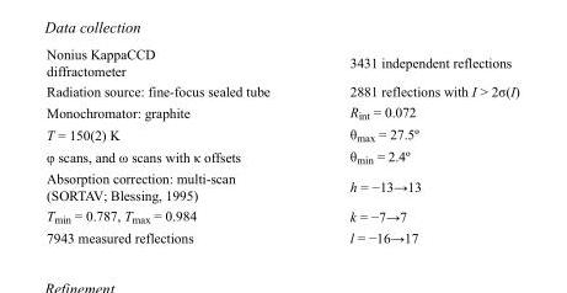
<table><tbody><tr><td>Nonius KappaCCD diffractometer</td><td>3431 independent reflections</td></tr><tr><td>Radiation source: fine-focus sealed tube</td><td>2881 reflections with I &gt; 2σ(I)</td></tr><tr><td>Monochromator: graphite</td><td>R<sub>int</sub> = 0.072</td></tr><tr><td>T = 150(2) K</td><td>θ<sub>max</sub> = 27.5º</td></tr><tr><td>φ scans, and ω scans with κ offsets</td><td>θ<sub>min</sub> = 2.4º</td></tr><tr><td>Absorption correction: multi-scan (SORTAV; Blessing, 1995)</td><td>h = −13→13</td></tr><tr><td>T<sub>min</sub> = 0.787, T<sub>max</sub> = 0.984</td><td>k = −7→7</td></tr><tr><td>7943 measured reflections</td><td>l = −16→17</td></tr></tbody></table>